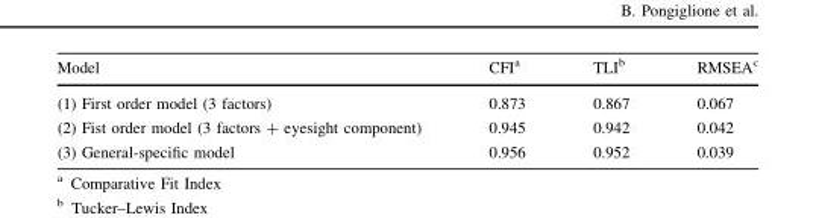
<table><thead><tr><td>Model</td><td>CFI<sup>a</sup></td><td>TLI<sup>b</sup></td><td>RMSEA<sup>c</sup></td></tr></thead><tbody><tr><td>(1) First order model (3 factors)</td><td>0.873</td><td>0.867</td><td>0.067</td></tr><tr><td>(2) Fist order model (3 factors + eyesight component)</td><td>0.945</td><td>0.942</td><td>0.042</td></tr><tr><td>(3) General-specific model</td><td>0.956</td><td>0.952</td><td>0.039</td></tr></tbody></table>